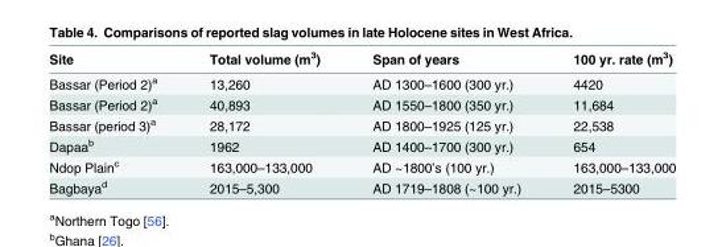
<table><thead><tr><td>Site</td><td>Total volume (m<sup>3</sup>)</td><td>Span of years</td><td>100 yr. rate (m<sup>3</sup>)</td></tr></thead><tbody><tr><td>Bassar (Period 2)<sup>a</sup></td><td>13,260</td><td>AD 1300–1600 (300 yr.)</td><td>4420</td></tr><tr><td>Bassar (Period 2)<sup>a</sup></td><td>40,893</td><td>AD 1550–1800 (350 yr.)</td><td>11,684</td></tr><tr><td>Bassar (period 3)<sup>a</sup></td><td>28,172</td><td>AD 1800–1925 (125 yr.)</td><td>22,538</td></tr><tr><td>Dapaa<sup>b</sup></td><td>1962</td><td>AD 1400–1700 (300 yr.)</td><td>654</td></tr><tr><td>Ndop Plain<sup>c</sup></td><td>163,000–133,000</td><td>AD ~1800’s (100 yr.)</td><td>163,000–133,000</td></tr><tr><td>Bagbaya<sup>d</sup></td><td>2015–5,300</td><td>AD 1719–1808 (~100 yr.)</td><td>2015–5300</td></tr></tbody></table>